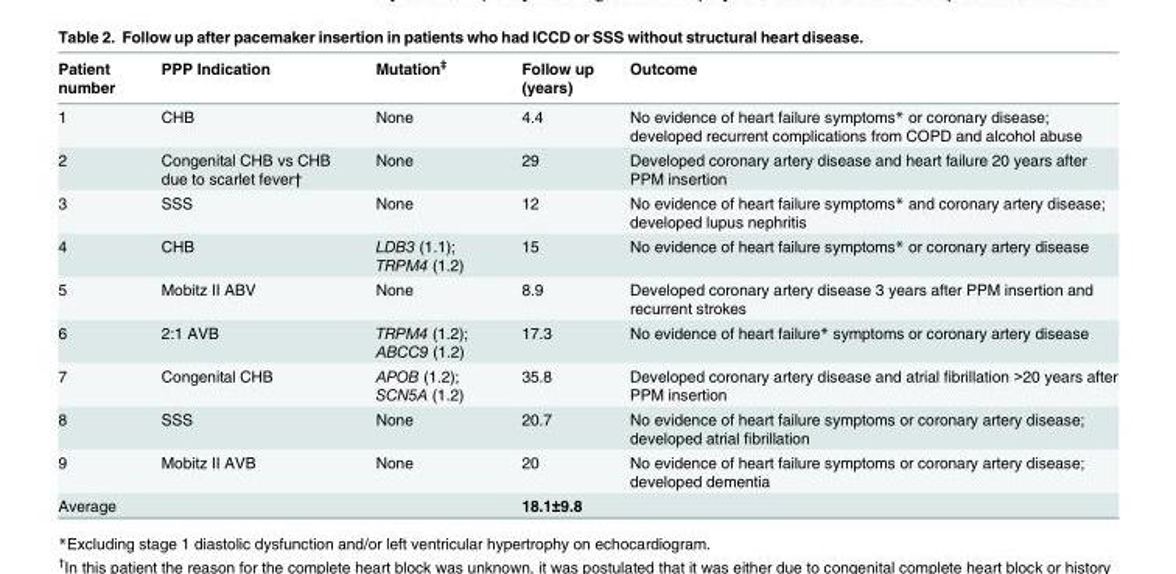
<table><thead><tr><td>Patient number</td><td>PPP Indication</td><td>Mutation<sup>‡</sup></td><td>Follow up (years)</td><td>Outcome</td></tr></thead><tbody><tr><td>1</td><td>CHB</td><td>None</td><td>4.4</td><td>No evidence of heart failure symptoms* or coronary disease; developed recurrent complications from COPD and alcohol abuse</td></tr><tr><td>2</td><td>Congenital CHB vs CHB due to scarlet fever†</td><td>None</td><td>29</td><td>Developed coronary artery disease and heart failure 20 years after PPM insertion</td></tr><tr><td>3</td><td>SSS</td><td>None</td><td>12</td><td>No evidence of heart failure symptoms* and coronary artery disease; developed lupus nephritis</td></tr><tr><td>4</td><td>CHB</td><td>LDB3 (1.1); TRPM4 (1.2)</td><td>15</td><td>No evidence of heart failure symptoms* or coronary artery disease</td></tr><tr><td>5</td><td>Mobitz II ABV</td><td>None</td><td>8.9</td><td>Developed coronary artery disease 3 years after PPM insertion and recurrent strokes</td></tr><tr><td>6</td><td>2:1 AVB</td><td>TRPM4 (1.2); ABCC9 (1.2)</td><td>17.3</td><td>No evidence of heart failure* symptoms or coronary artery disease</td></tr><tr><td>7</td><td>Congenital CHB</td><td>APOB (1.2); SCN5A (1.2)</td><td>35.8</td><td>Developed coronary artery disease and atrial fibrillation &gt;20 years after PPM insertion</td></tr><tr><td>8</td><td>SSS</td><td>None</td><td>20.7</td><td>No evidence of heart failure symptoms or coronary artery disease; developed atrial fibrillation</td></tr><tr><td>9</td><td>Mobitz II AVB</td><td>None</td><td>20</td><td>No evidence of heart failure symptoms or coronary artery disease; developed dementia</td></tr><tr><td>Average</td><td></td><td></td><td>18.1±9.8</td><td></td></tr></tbody></table>